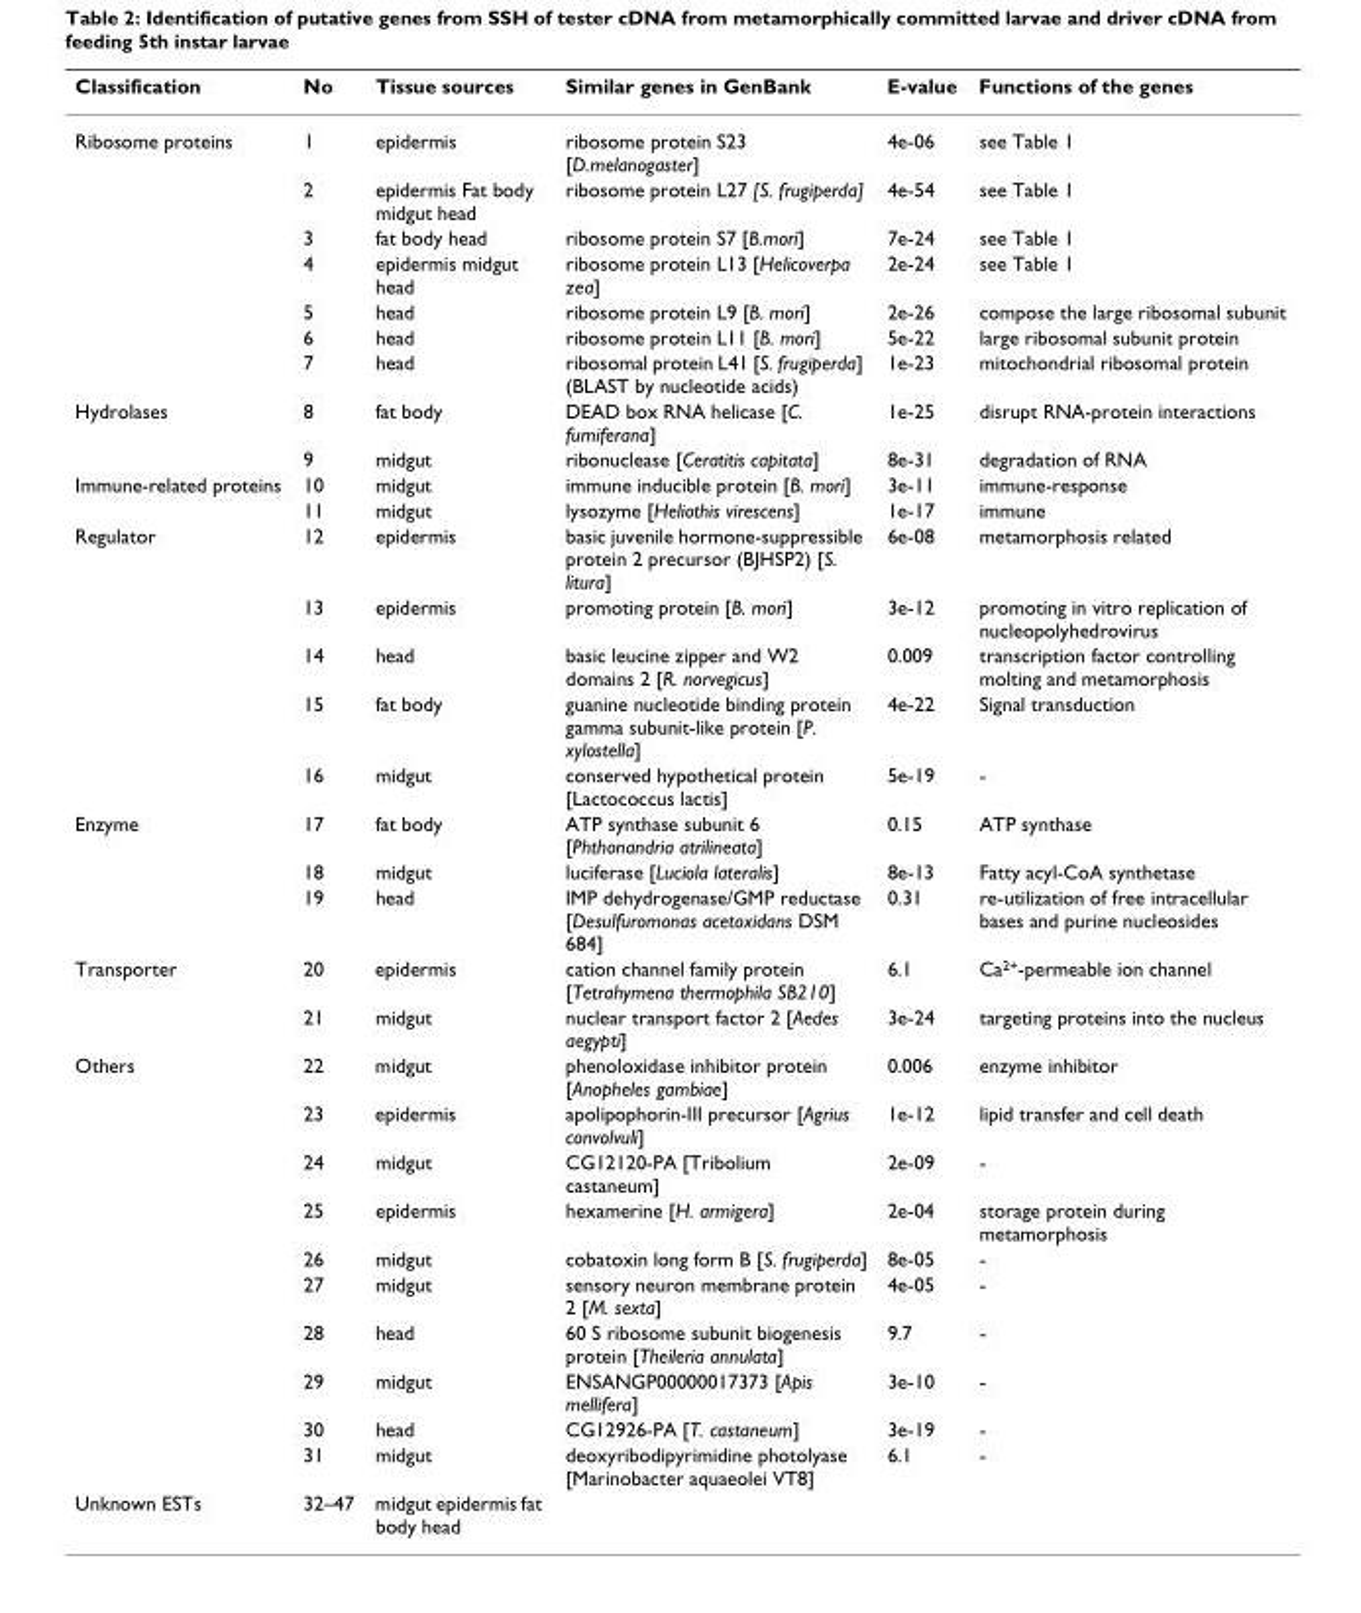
<table><thead><tr><td>Classification</td><td>No</td><td>Tissue sources</td><td>Similar genes in GenBank</td><td>E-value</td><td>Functions of the genes</td></tr></thead><tbody><tr><td rowspan="7">Ribosome proteins</td><td>1</td><td>epidermis</td><td>ribosome protein S23 [D.melanogaster]</td><td>4e-06</td><td>see Table 1</td></tr><tr><td>2</td><td>epidermis Fat body midgut head</td><td>ribosome protein L27 [S. frugiperda]</td><td>4e-54</td><td>see Table 1</td></tr><tr><td>3</td><td>fat body head</td><td>ribosome protein S7 [B.mori]</td><td>7e-24</td><td>see Table 1</td></tr><tr><td>4</td><td>epidermis midgut head</td><td>ribosome protein L13 [Helicoverpa zea]</td><td>2e-24</td><td>see Table 1</td></tr><tr><td>5</td><td>head</td><td>ribosome protein L9 [B. mori]</td><td>2e-26</td><td>compose the large ribosomal subunit</td></tr><tr><td>6</td><td>head</td><td>ribosome protein L11 [B. mori]</td><td>5e-22</td><td>large ribosomal subunit protein</td></tr><tr><td>7</td><td>head</td><td>ribosomal protein L41 [S. frugiperda] (BLAST by nucleotide acids)</td><td>1e-23</td><td>mitochondrial ribosomal protein</td></tr><tr><td rowspan="2">Hydrolases</td><td>8</td><td>fat body</td><td>DEAD box RNA helicase [C. fumiferana]</td><td>1e-25</td><td>disrupt RNA-protein interactions</td></tr><tr><td>9</td><td>midgut</td><td>ribonuclease [Ceratitis capitata]</td><td>8e-31</td><td>degradation of RNA</td></tr><tr><td rowspan="2">Immune-related proteins</td><td>10</td><td>midgut</td><td>immune inducible protein [B. mori]</td><td>3e-11</td><td>immune-response</td></tr><tr><td>11</td><td>midgut</td><td>lysozyme [Heliothis virescens]</td><td>1e-17</td><td>immune</td></tr><tr><td rowspan="5">Regulator</td><td>12</td><td>epidermis</td><td>basic juvenile hormone-suppressible protein 2 precursor (BJHSP2) [S. litura]</td><td>6e-08</td><td>metamorphosis related</td></tr><tr><td>13</td><td>epidermis</td><td>promoting protein [B. mori]</td><td>3e-12</td><td>promoting in vitro replication of nucleopolyhedrovirus</td></tr><tr><td>14</td><td>head</td><td>basic leucine zipper and W2 domains 2 [R. norvegicus]</td><td>0.009</td><td>transcription factor controlling molting and metamorphosis</td></tr><tr><td>15</td><td>fat body</td><td>guanine nucleotide binding protein gamma subunit-like protein [P. xylostella]</td><td>4e-22</td><td>Signal transduction</td></tr><tr><td>16</td><td>midgut</td><td>conserved hypothetical protein [Lactococcus lactis]</td><td>5e-19</td><td>-</td></tr><tr><td rowspan="3">Enzyme</td><td>17</td><td>fat body</td><td>ATP synthase subunit 6 [Phthonandria atrilineata]</td><td>0.15</td><td>ATP synthase</td></tr><tr><td>18</td><td>midgut</td><td>luciferase [Luciola lateralis]</td><td>8e-13</td><td>Fatty acyl-CoA synthetase</td></tr><tr><td>19</td><td>head</td><td>IMP dehydrogenase/GMP reductase [Desulfuromonas acetoxidans DSM 684]</td><td>0.31</td><td>re-utilization of free intracellular bases and purine nucleosides</td></tr><tr><td rowspan="2">Transporter</td><td>20</td><td>epidermis</td><td>cation channel family protein [Tetrahymena thermophila SB210]</td><td>6.1</td><td>Ca<sup>2+</sup>-permeable ion channel</td></tr><tr><td>21</td><td>midgut</td><td>nuclear transport factor 2 [Aedes aegypti]</td><td>3e-24</td><td>targeting proteins into the nucleus</td></tr><tr><td rowspan="10">Others</td><td>22</td><td>midgut</td><td>phenoloxidase inhibitor protein [Anopheles gambiae]</td><td>0.006</td><td>enzyme inhibitor</td></tr><tr><td>23</td><td>epidermis</td><td>apolipophorin-III precursor [Agrius convolvuli]</td><td>1e-12</td><td>lipid transfer and cell death</td></tr><tr><td>24</td><td>midgut</td><td>CG12120-PA [Tribolium castaneum]</td><td>2e-09</td><td>-</td></tr><tr><td>25</td><td>epidermis</td><td>hexamerine [H. armigera]</td><td>2e-04</td><td>storage protein during metamorphosis</td></tr><tr><td>26</td><td>midgut</td><td>cobatoxin long form B [S. frugiperda]</td><td>8e-05</td><td>-</td></tr><tr><td>27</td><td>midgut</td><td>sensory neuron membrane protein 2 [M. sexta]</td><td>4e-05</td><td>-</td></tr><tr><td>28</td><td>head</td><td>60 S ribosome subunit biogenesis protein [Theileria annulata]</td><td>9.7</td><td>-</td></tr><tr><td>29</td><td>midgut</td><td>ENSANGP00000017373 [Apis mellifera]</td><td>3e-10</td><td>-</td></tr><tr><td>30</td><td>head</td><td>CG12926-PA [T. castaneum]</td><td>3e-19</td><td>-</td></tr><tr><td>31</td><td>midgut</td><td>deoxyribodipyrimidine photolyase [Marinobacter aquaeolei VT8]</td><td>6.1</td><td>-</td></tr><tr><td>Unknown ESTs</td><td>32–47</td><td>midgut epidermis fat body head</td><td></td><td></td><td></td></tr></tbody></table>